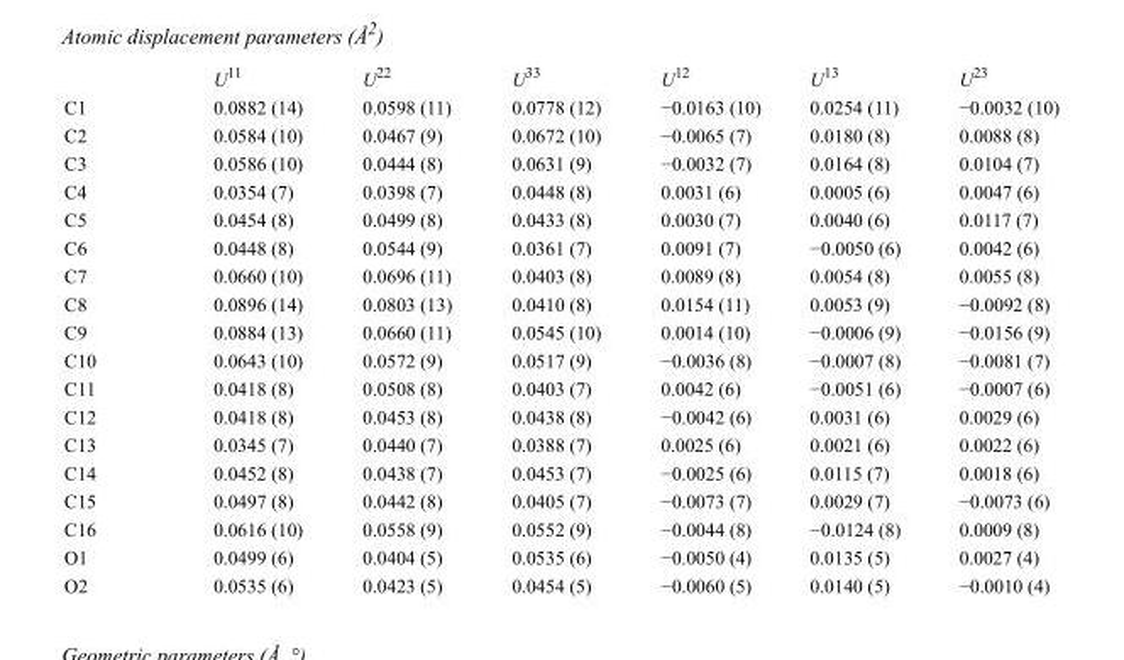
<table><thead><tr><td></td><td>U<sup>11</sup></td><td>U<sup>22</sup></td><td>U<sup>33</sup></td><td>U<sup>12</sup></td><td>U<sup>13</sup></td><td>U<sup>23</sup></td></tr></thead><tbody><tr><td>C1</td><td>0.0882 (14)</td><td>0.0598 (11)</td><td>0.0778 (12)</td><td>−0.0163 (10)</td><td>0.0254 (11)</td><td>−0.0032 (10)</td></tr><tr><td>C2</td><td>0.0584 (10)</td><td>0.0467 (9)</td><td>0.0672 (10)</td><td>−0.0065 (7)</td><td>0.0180 (8)</td><td>0.0088 (8)</td></tr><tr><td>C3</td><td>0.0586 (10)</td><td>0.0444 (8)</td><td>0.0631 (9)</td><td>−0.0032 (7)</td><td>0.0164 (8)</td><td>0.0104 (7)</td></tr><tr><td>C4</td><td>0.0354 (7)</td><td>0.0398 (7)</td><td>0.0448 (8)</td><td>0.0031 (6)</td><td>0.0005 (6)</td><td>0.0047 (6)</td></tr><tr><td>C5</td><td>0.0454 (8)</td><td>0.0499 (8)</td><td>0.0433 (8)</td><td>0.0030 (7)</td><td>0.0040 (6)</td><td>0.0117 (7)</td></tr><tr><td>C6</td><td>0.0448 (8)</td><td>0.0544 (9)</td><td>0.0361 (7)</td><td>0.0091 (7)</td><td>−0.0050 (6)</td><td>0.0042 (6)</td></tr><tr><td>C7</td><td>0.0660 (10)</td><td>0.0696 (11)</td><td>0.0403 (8)</td><td>0.0089 (8)</td><td>0.0054 (8)</td><td>0.0055 (8)</td></tr><tr><td>C8</td><td>0.0896 (14)</td><td>0.0803 (13)</td><td>0.0410 (8)</td><td>0.0154 (11)</td><td>0.0053 (9)</td><td>−0.0092 (8)</td></tr><tr><td>C9</td><td>0.0884 (13)</td><td>0.0660 (11)</td><td>0.0545 (10)</td><td>0.0014 (10)</td><td>−0.0006 (9)</td><td>−0.0156 (9)</td></tr><tr><td>C10</td><td>0.0643 (10)</td><td>0.0572 (9)</td><td>0.0517 (9)</td><td>−0.0036 (8)</td><td>−0.0007 (8)</td><td>−0.0081 (7)</td></tr><tr><td>C11</td><td>0.0418 (8)</td><td>0.0508 (8)</td><td>0.0403 (7)</td><td>0.0042 (6)</td><td>−0.0051 (6)</td><td>−0.0007 (6)</td></tr><tr><td>C12</td><td>0.0418 (8)</td><td>0.0453 (8)</td><td>0.0438 (8)</td><td>−0.0042 (6)</td><td>0.0031 (6)</td><td>0.0029 (6)</td></tr><tr><td>C13</td><td>0.0345 (7)</td><td>0.0440 (7)</td><td>0.0388 (7)</td><td>0.0025 (6)</td><td>0.0021 (6)</td><td>0.0022 (6)</td></tr><tr><td>C14</td><td>0.0452 (8)</td><td>0.0438 (7)</td><td>0.0453 (7)</td><td>−0.0025 (6)</td><td>0.0115 (7)</td><td>0.0018 (6)</td></tr><tr><td>C15</td><td>0.0497 (8)</td><td>0.0442 (8)</td><td>0.0405 (7)</td><td>−0.0073 (7)</td><td>0.0029 (7)</td><td>−0.0073 (6)</td></tr><tr><td>C16</td><td>0.0616 (10)</td><td>0.0558 (9)</td><td>0.0552 (9)</td><td>−0.0044 (8)</td><td>−0.0124 (8)</td><td>0.0009 (8)</td></tr><tr><td>O1</td><td>0.0499 (6)</td><td>0.0404 (5)</td><td>0.0535 (6)</td><td>−0.0050 (4)</td><td>0.0135 (5)</td><td>0.0027 (4)</td></tr><tr><td>O2</td><td>0.0535 (6)</td><td>0.0423 (5)</td><td>0.0454 (5)</td><td>−0.0060 (5)</td><td>0.0140 (5)</td><td>−0.0010 (4)</td></tr></tbody></table>